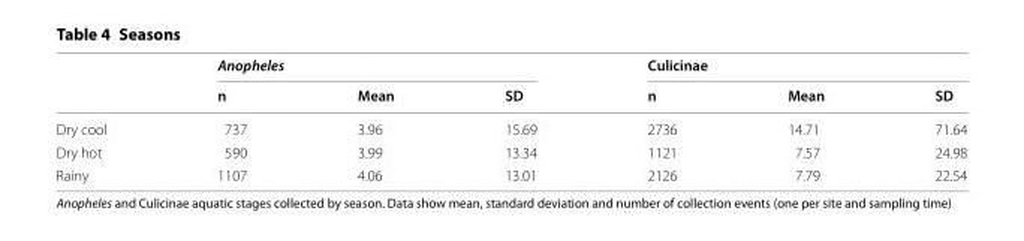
<table><thead><tr><td rowspan="2"></td><td colspan="3">Anopheles</td><td colspan="3">Culicinae</td></tr><tr><td>n</td><td>Mean</td><td>SD</td><td>n</td><td>Mean</td><td>SD</td></tr></thead><tbody><tr><td>Dry cool</td><td>737</td><td>3.96</td><td>15.69</td><td>2736</td><td>14.71</td><td>71.64</td></tr><tr><td>Dry hot</td><td>590</td><td>3.99</td><td>13.34</td><td>1121</td><td>7.57</td><td>24.98</td></tr><tr><td>Rainy</td><td>1107</td><td>4.06</td><td>13.01</td><td>2126</td><td>7.79</td><td>22.54</td></tr></tbody></table>